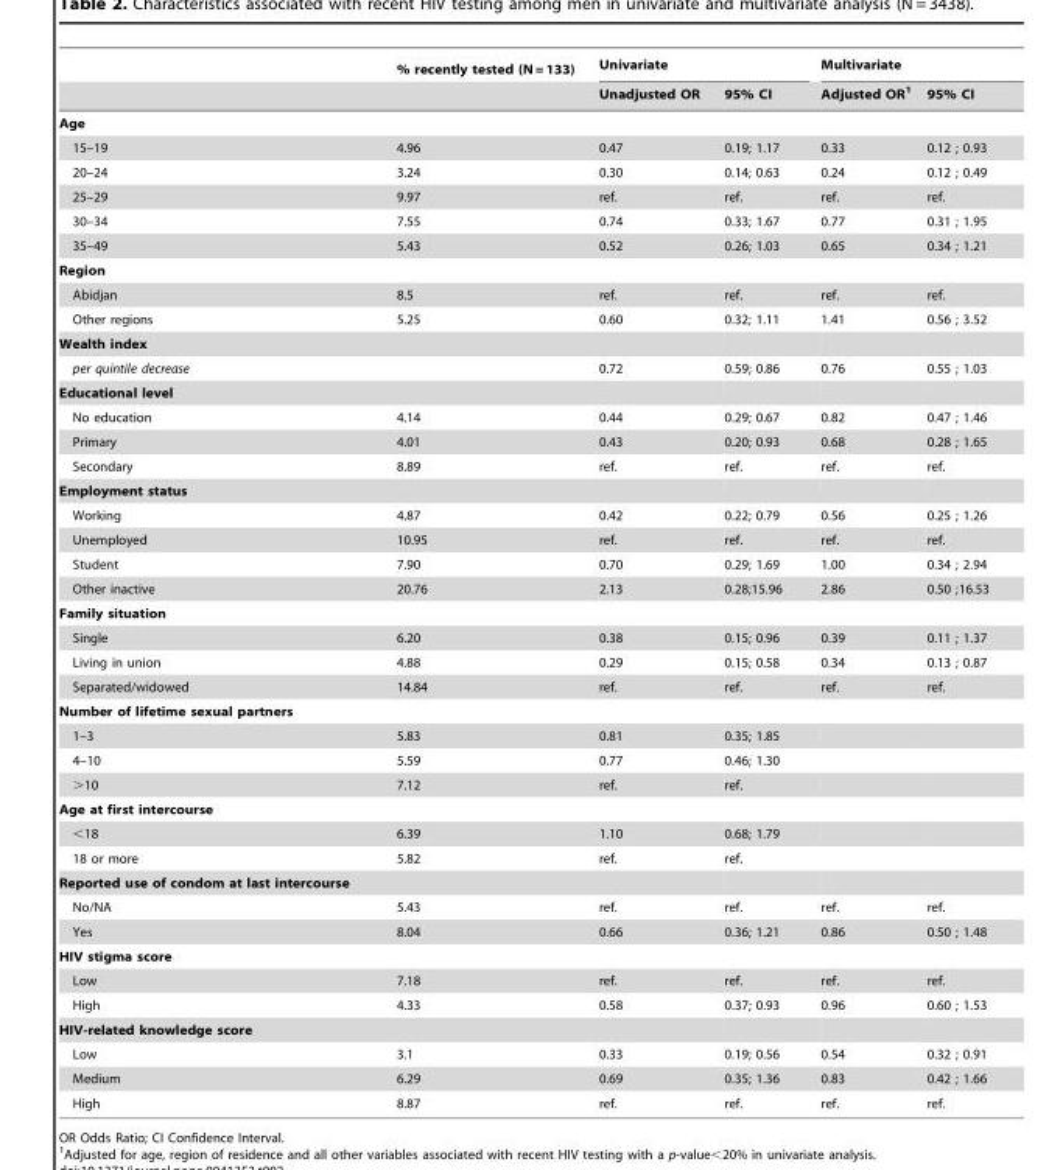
<table><thead><tr><td rowspan="2"></td><td rowspan="2">% recently tested (N = 133)</td><td colspan="2">Univariate</td><td colspan="2">Multivariate</td></tr><tr><td>Unadjusted OR</td><td>95% CI</td><td>Adjusted OR<sup>1</sup></td><td>95% CI</td></tr></thead><tbody><tr><td colspan="6">Age</td></tr><tr><td>15–19</td><td>4.96</td><td>0.47</td><td>0.19; 1.17</td><td>0.33</td><td>0.12 ; 0.93</td></tr><tr><td>20–24</td><td>3.24</td><td>0.30</td><td>0.14; 0.63</td><td>0.24</td><td>0.12 ; 0.49</td></tr><tr><td>25–29</td><td>9.97</td><td>ref.</td><td>ref.</td><td>ref.</td><td>ref.</td></tr><tr><td>30–34</td><td>7.55</td><td>0.74</td><td>0.33; 1.67</td><td>0.77</td><td>0.31 ; 1.95</td></tr><tr><td>35–49</td><td>5.43</td><td>0.52</td><td>0.26; 1.03</td><td>0.65</td><td>0.34 ; 1.21</td></tr><tr><td colspan="6">Region</td></tr><tr><td>Abidjan</td><td>8.5</td><td>ref.</td><td>ref.</td><td>ref.</td><td>ref.</td></tr><tr><td>Other regions</td><td>5.25</td><td>0.60</td><td>0.32; 1.11</td><td>1.41</td><td>0.56 ; 3.52</td></tr><tr><td colspan="6">Wealth index</td></tr><tr><td>per quintile decrease</td><td></td><td>0.72</td><td>0.59; 0.86</td><td>0.76</td><td>0.55 ; 1.03</td></tr><tr><td colspan="6">Educational level</td></tr><tr><td>No education</td><td>4.14</td><td>0.44</td><td>0.29; 0.67</td><td>0.82</td><td>0.47 ; 1.46</td></tr><tr><td>Primary</td><td>4.01</td><td>0.43</td><td>0.20; 0.93</td><td>0.68</td><td>0.28 ; 1.65</td></tr><tr><td>Secondary</td><td>8.89</td><td>ref.</td><td>ref.</td><td>ref.</td><td>ref.</td></tr><tr><td colspan="6">Employment status</td></tr><tr><td>Working</td><td>4.87</td><td>0.42</td><td>0.22; 0.79</td><td>0.56</td><td>0.25 ; 1.26</td></tr><tr><td>Unemployed</td><td>10.95</td><td>ref.</td><td>ref.</td><td>ref.</td><td>ref.</td></tr><tr><td>Student</td><td>7.90</td><td>0.70</td><td>0.29; 1.69</td><td>1.00</td><td>0.34 ; 2.94</td></tr><tr><td>Other inactive</td><td>20.76</td><td>2.13</td><td>0.28;15.96</td><td>2.86</td><td>0.50 ;16.53</td></tr><tr><td colspan="6">Family situation</td></tr><tr><td>Single</td><td>6.20</td><td>0.38</td><td>0.15; 0.96</td><td>0.39</td><td>0.11 ; 1.37</td></tr><tr><td>Living in union</td><td>4.88</td><td>0.29</td><td>0.15; 0.58</td><td>0.34</td><td>0.13 ; 0.87</td></tr><tr><td>Separated/widowed</td><td>14.84</td><td>ref.</td><td>ref.</td><td>ref.</td><td>ref.</td></tr><tr><td colspan="6">Number of lifetime sexual partners</td></tr><tr><td>1–3</td><td>5.83</td><td>0.81</td><td>0.35; 1.85</td><td></td><td></td></tr><tr><td>4–10</td><td>5.59</td><td>0.77</td><td>0.46; 1.30</td><td></td><td></td></tr><tr><td>&gt;10</td><td>7.12</td><td>ref.</td><td>ref.</td><td></td><td></td></tr><tr><td colspan="6">Age at first intercourse</td></tr><tr><td>&lt;18</td><td>6.39</td><td>1.10</td><td>0.68; 1.79</td><td></td><td></td></tr><tr><td>18 or more</td><td>5.82</td><td>ref.</td><td>ref.</td><td></td><td></td></tr><tr><td colspan="6">Reported use of condom at last intercourse</td></tr><tr><td>No/NA</td><td>5.43</td><td>ref.</td><td>ref.</td><td>ref.</td><td>ref.</td></tr><tr><td>Yes</td><td>8.04</td><td>0.66</td><td>0.36; 1.21</td><td>0.86</td><td>0.50 ; 1.48</td></tr><tr><td colspan="6">HIV stigma score</td></tr><tr><td>Low</td><td>7.18</td><td>ref.</td><td>ref.</td><td>ref.</td><td>ref.</td></tr><tr><td>High</td><td>4.33</td><td>0.58</td><td>0.37; 0.93</td><td>0.96</td><td>0.60 ; 1.53</td></tr><tr><td colspan="6">HIV-related knowledge score</td></tr><tr><td>Low</td><td>3.1</td><td>0.33</td><td>0.19; 0.56</td><td>0.54</td><td>0.32 ; 0.91</td></tr><tr><td>Medium</td><td>6.29</td><td>0.69</td><td>0.35; 1.36</td><td>0.83</td><td>0.42 ; 1.66</td></tr><tr><td>High</td><td>8.87</td><td>ref.</td><td>ref.</td><td>ref.</td><td>ref.</td></tr></tbody></table>